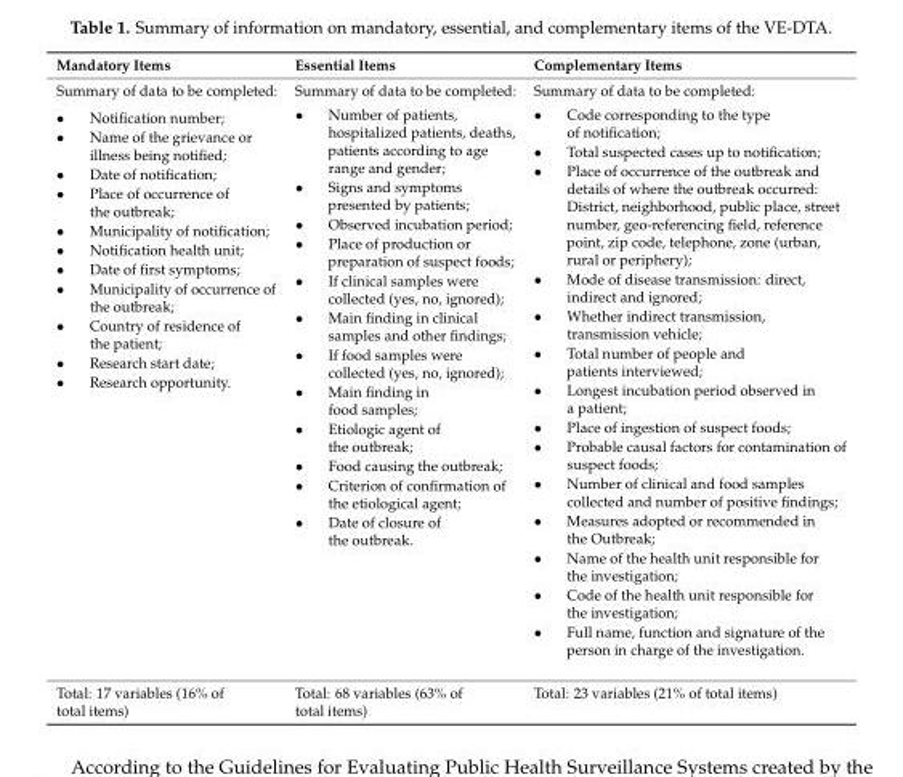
<table><thead><tr><td>Mandatory Items</td><td>Essential Items</td><td>Complementary Items</td></tr></thead><tbody><tr><td>Summary of data to be completed: • Notification number; • Name of the grievance or illness being notified; • Date of notification; • Place of occurrence of the outbreak; • Municipality of notification; • Notification health unit; • Date of first symptoms; • Municipality of occurrence of the outbreak; • Country of residence of the patient; • Research start date; • Research opportunity.</td><td>Summary of data to be completed: • Number of patients, hospitalized patients, deaths, patients according to age range and gender; • Signs and symptoms presented by patients; • Observed incubation period; • Place of production or preparation of suspect foods; • If clinical samples were collected (yes, no, ignored); • Main finding in clinical samples and other findings; • If food samples were collected (yes, no, ignored); • Main finding in food samples; • Etiologic agent of the outbreak; • Food causing the outbreak; • Criterion of confirmation of the etiological agent; • Date of closure of the outbreak.</td><td>Summary of data to be completed: • Code corresponding to the type of notification; • Total suspected cases up to notification; • Place of occurrence of the outbreak and details of where the outbreak occurred: District, neighborhood, public place, street number, geo-referencing field, reference point, zip code, telephone, zone (urban, rural or periphery); • Mode of disease transmission: direct, indirect and ignored; • Whether indirect transmission, transmission vehicle; • Total number of people and patients interviewed; • Longest incubation period observed in a patient; • Place of ingestion of suspect foods; • Probable causal factors for contamination of suspect foods; • Number of clinical and food samples collected and number of positive findings; • Measures adopted or recommended in the Outbreak; • Name of the health unit responsible for the investigation; • Code of the health unit responsible for the investigation; • Full name, function and signature of the person in charge of the investigation.</td></tr><tr><td>Total: 17 variables (16% of total items)</td><td>Total: 68 variables (63% of total items)</td><td>Total: 23 variables (21% of total items)</td></tr></tbody></table>